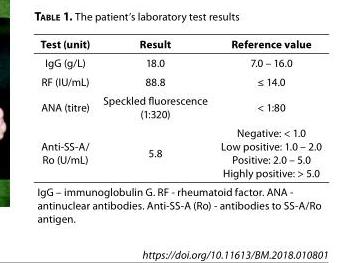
<table><thead><tr><td>Test (unit)</td><td>Result</td><td>Reference value</td></tr></thead><tbody><tr><td>IgG (g/L)</td><td>18.0</td><td>7.0 – 16.0</td></tr><tr><td>RF (IU/mL)</td><td>88.8</td><td>≤ 14.0</td></tr><tr><td>ANA (titre)</td><td>Speckled fluorescence (1:320)</td><td>&lt; 1:80</td></tr><tr><td>Anti-SS-A/ Ro (U/mL)</td><td>5.8</td><td>Negative: &lt; 1.0 Low positive: 1.0 – 2.0 Positive: 2.0 – 5.0 Highly positive: &gt; 5.0</td></tr><tr><td colspan="3">IgG – immunoglobulin G. RF - rheumatoid factor. ANA - antinuclear antibodies. Anti-SS-A (Ro) - antibodies to SS-A/Ro antigen.</td></tr></tbody></table>